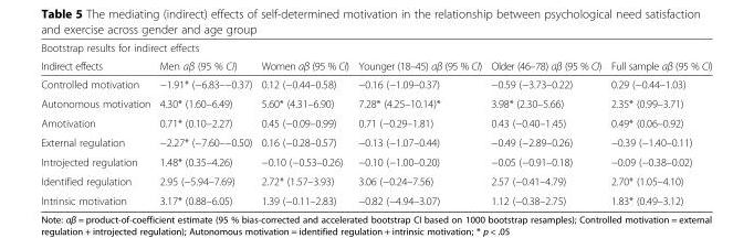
<table><thead><tr><td colspan="6">Bootstrap results for indirect effects</td></tr><tr><td>Indirect effects</td><td>Men aβ (95 % CI)</td><td>Women aβ (95 % CI)</td><td>Younger (18–45) aβ (95 % CI)</td><td>Older (46–78) aβ (95 % CI)</td><td>Full sample aβ (95 % CI)</td></tr></thead><tbody><tr><td>Controlled motivation</td><td>−1.91* (−6.83–−0.37)</td><td>0.12 (−0.44–0.58)</td><td>−0.16 (−1.09–0.37)</td><td>−0.59 (−3.73–0.22)</td><td>0.29 (−0.44–1.03)</td></tr><tr><td>Autonomous motivation</td><td>4.30* (1.60–6.49)</td><td>5.60* (4.31–6.90)</td><td>7.28* (4.25–10.14)*</td><td>3.98* (2.30–5.66)</td><td>2.35* (0.99–3.71)</td></tr><tr><td>Amotivation</td><td>0.71* (0.10–2.27)</td><td>0.45 (−0.09–0.99)</td><td>0.71 (−0.29–1.81)</td><td>0.43 (−0.40–1.45)</td><td>0.49* (0.06–0.92)</td></tr><tr><td>External regulation</td><td>−2.27* (−7.60–−0.50)</td><td>0.16 (−0.28–0.57)</td><td>−0.13 (−1.07–0.44)</td><td>−0.49 (−2.89–0.26)</td><td>−0.39 (−1.40–0.11)</td></tr><tr><td>Introjected regulation</td><td>1.48* (0.35–4.26)</td><td>−0.10 (−0.53–0.26)</td><td>−0.10 (−1.00–0.20)</td><td>−0.05 (−0.91–0.18)</td><td>−0.09 (−0.38–0.02)</td></tr><tr><td>Identified regulation</td><td>2.95 (−5.94–7.69)</td><td>2.72* (1.57–3.93)</td><td>3.06 (−0.24–7.56)</td><td>2.57 (−0.41–4.79)</td><td>2.70* (1.05–4.10)</td></tr><tr><td>Intrinsic motivation</td><td>3.17* (0.88–6.05)</td><td>1.39 (−0.11–2.83)</td><td>−0.82 (−4.94–3.07)</td><td>1.12 (−0.38–2.75)</td><td>1.83* (0.49–3.12)</td></tr></tbody></table>